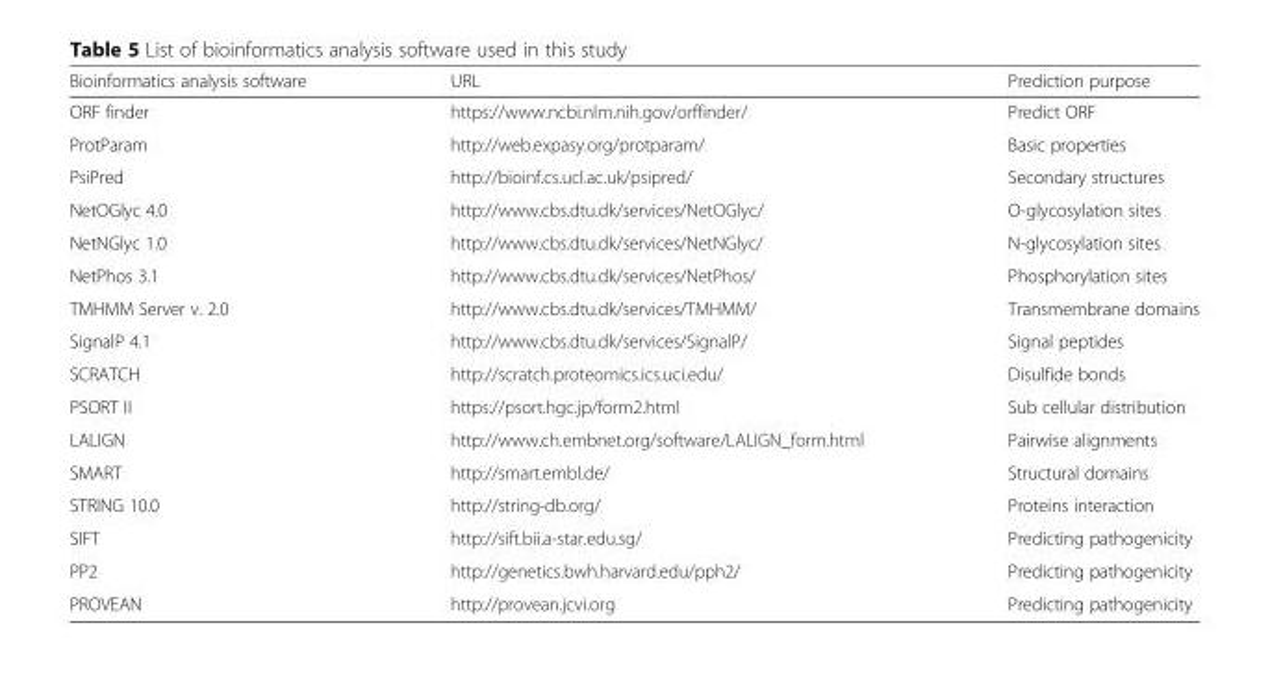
<table><thead><tr><td>Bioinformatics analysis software</td><td>URL</td><td>Prediction purpose</td></tr></thead><tbody><tr><td>ORF finder</td><td>https://www.ncbi.nlm.nih.gov/orffinder/</td><td>Predict ORF</td></tr><tr><td>ProtParam</td><td>http://web.expasy.org/protparam/</td><td>Basic properties</td></tr><tr><td>PsiPred</td><td>http://bioinf.cs.ucl.ac.uk/psipred/</td><td>Secondary structures</td></tr><tr><td>NetOGlyc 4.0</td><td>http://www.cbs.dtu.dk/services/NetOGlyc/</td><td>O-glycosylation sites</td></tr><tr><td>NetNGlyc 1.0</td><td>http://www.cbs.dtu.dk/services/NetNGlyc/</td><td>N-glycosylation sites</td></tr><tr><td>NetPhos 3.1</td><td>http://www.cbs.dtu.dk/services/NetPhos/</td><td>Phosphorylation sites</td></tr><tr><td>TMHMM Server v. 2.0</td><td>http://www.cbs.dtu.dk/services/TMHMM/</td><td>Transmembrane domains</td></tr><tr><td>SignalP 4.1</td><td>http://www.cbs.dtu.dk/services/SignalP/</td><td>Signal peptides</td></tr><tr><td>SCRATCH</td><td>http://scratch.proteomics.ics.uci.edu/</td><td>Disulfide bonds</td></tr><tr><td>PSORT II</td><td>https://psort.hgc.jp/form2.html</td><td>Sub cellular distribution</td></tr><tr><td>LALIGN</td><td>http://www.ch.embnet.org/software/LALIGN_form.html</td><td>Pairwise alignments</td></tr><tr><td>SMART</td><td>http://smart.embl.de/</td><td>Structural domains</td></tr><tr><td>STRING 10.0</td><td>http://string-db.org/</td><td>Proteins interaction</td></tr><tr><td>SIFT</td><td>http://sift.bii.a-star.edu.sg/</td><td>Predicting pathogenicity</td></tr><tr><td>PP2</td><td>http://genetics.bwh.harvard.edu/pph2/</td><td>Predicting pathogenicity</td></tr><tr><td>PROVEAN</td><td>http://provean.jcvi.org</td><td>Predicting pathogenicity</td></tr></tbody></table>